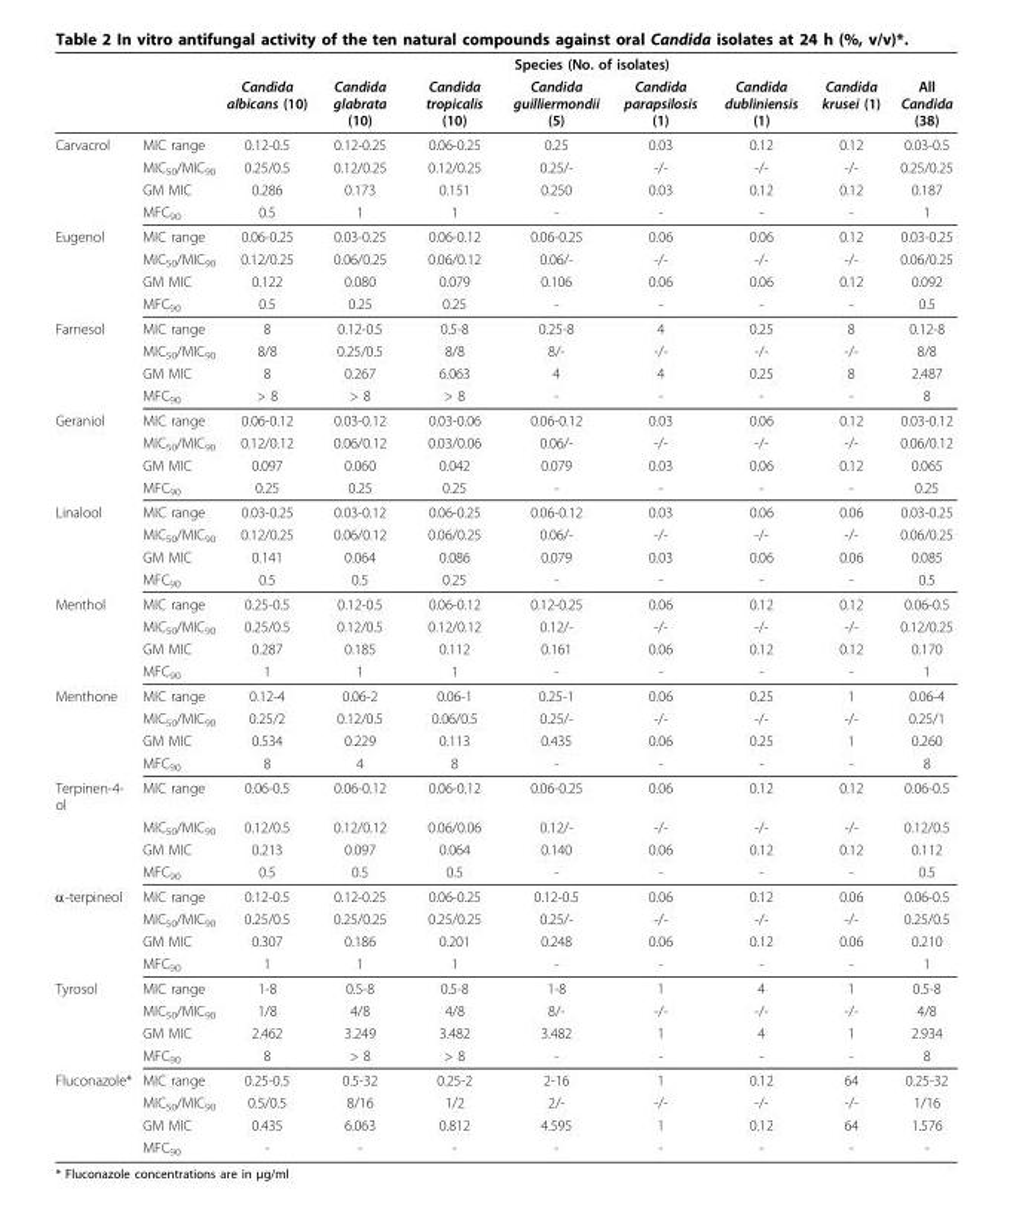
<table><thead><tr><td rowspan="2"></td><td rowspan="2"></td><td colspan="8">Species (No. of isolates)</td></tr><tr><td>Candida albicans (10)</td><td>Candida glabrata (10)</td><td>Candida tropicalis (10)</td><td>Candida guilliermondii (5)</td><td>Candida parapsilosis (1)</td><td>Candida dubliniensis (1)</td><td>Candida krusei (1)</td><td>All Candida (38)</td></tr></thead><tbody><tr><td rowspan="4">Carvacrol</td><td>MIC range</td><td>0.12-0.5</td><td>0.12-0.25</td><td>0.06-0.25</td><td>0.25</td><td>0.03</td><td>0.12</td><td>0.12</td><td>0.03-0.5</td></tr><tr><td>MIC<sub>50</sub>/MIC<sub>90</sub></td><td>0.25/0.5</td><td>0.12/0.25</td><td>0.12/0.25</td><td>0.25/-</td><td>-/-</td><td>-/-</td><td>-/-</td><td>0.25/0.25</td></tr><tr><td>GM MIC</td><td>0.286</td><td>0.173</td><td>0.151</td><td>0.250</td><td>0.03</td><td>0.12</td><td>0.12</td><td>0.187</td></tr><tr><td>MFC<sub>90</sub></td><td>0.5</td><td>1</td><td>1</td><td>-</td><td>-</td><td>-</td><td>-</td><td>1</td></tr><tr><td rowspan="4">Eugenol</td><td>MIC range</td><td>0.06-0.25</td><td>0.03-0.25</td><td>0.06-0.12</td><td>0.06-0.25</td><td>0.06</td><td>0.06</td><td>0.12</td><td>0.03-0.25</td></tr><tr><td>MIC<sub>50</sub>/MIC<sub>90</sub></td><td>0.12/0.25</td><td>0.06/0.25</td><td>0.06/0.12</td><td>0.06/-</td><td>-/-</td><td>-/-</td><td>-/-</td><td>0.06/0.25</td></tr><tr><td>GM MIC</td><td>0.122</td><td>0.080</td><td>0.079</td><td>0.106</td><td>0.06</td><td>0.06</td><td>0.12</td><td>0.092</td></tr><tr><td>MFC<sub>90</sub></td><td>0.5</td><td>0.25</td><td>0.25</td><td>-</td><td>-</td><td>-</td><td>-</td><td>0.5</td></tr><tr><td rowspan="4">Farnesol</td><td>MIC range</td><td>8</td><td>0.12-0.5</td><td>0.5-8</td><td>0.25-8</td><td>4</td><td>0.25</td><td>8</td><td>0.12-8</td></tr><tr><td>MIC<sub>50</sub>/MIC<sub>90</sub></td><td>8/8</td><td>0.25/0.5</td><td>8/8</td><td>8/-</td><td>-/-</td><td>-/-</td><td>-/-</td><td>8/8</td></tr><tr><td>GM MIC</td><td>8</td><td>0.267</td><td>6.063</td><td>4</td><td>4</td><td>0.25</td><td>8</td><td>2.487</td></tr><tr><td>MFC<sub>90</sub></td><td>&gt; 8</td><td>&gt; 8</td><td>&gt; 8</td><td>-</td><td>-</td><td>-</td><td>-</td><td>8</td></tr><tr><td rowspan="4">Geraniol</td><td>MIC range</td><td>0.06-0.12</td><td>0.03-0.12</td><td>0.03-0.06</td><td>0.06-0.12</td><td>0.03</td><td>0.06</td><td>0.12</td><td>0.03-0.12</td></tr><tr><td>MIC<sub>50</sub>/MIC<sub>90</sub></td><td>0.12/0.12</td><td>0.06/0.12</td><td>0.03/0.06</td><td>0.06/-</td><td>-/-</td><td>-/-</td><td>-/-</td><td>0.06/0.12</td></tr><tr><td>GM MIC</td><td>0.097</td><td>0.060</td><td>0.042</td><td>0.079</td><td>0.03</td><td>0.06</td><td>0.12</td><td>0.065</td></tr><tr><td>MFC<sub>90</sub></td><td>0.25</td><td>0.25</td><td>0.25</td><td>-</td><td>-</td><td>-</td><td>-</td><td>0.25</td></tr><tr><td rowspan="4">Linalool</td><td>MIC range</td><td>0.03-0.25</td><td>0.03-0.12</td><td>0.06-0.25</td><td>0.06-0.12</td><td>0.03</td><td>0.06</td><td>0.06</td><td>0.03-0.25</td></tr><tr><td>MIC<sub>50</sub>/MIC<sub>90</sub></td><td>0.12/0.25</td><td>0.06/0.12</td><td>0.06/0.25</td><td>0.06/-</td><td>-/-</td><td>-/-</td><td>-/-</td><td>0.06/0.25</td></tr><tr><td>GM MIC</td><td>0.141</td><td>0.064</td><td>0.086</td><td>0.079</td><td>0.03</td><td>0.06</td><td>0.06</td><td>0.085</td></tr><tr><td>MFC<sub>90</sub></td><td>0.5</td><td>0.5</td><td>0.25</td><td>-</td><td>-</td><td>-</td><td>-</td><td>0.5</td></tr><tr><td rowspan="4">Menthol</td><td>MIC range</td><td>0.25-0.5</td><td>0.12-0.5</td><td>0.06-0.12</td><td>0.12-0.25</td><td>0.06</td><td>0.12</td><td>0.12</td><td>0.06-0.5</td></tr><tr><td>MIC<sub>50</sub>/MIC<sub>90</sub></td><td>0.25/0.5</td><td>0.12/0.5</td><td>0.12/0.12</td><td>0.12/-</td><td>-/-</td><td>-/-</td><td>-/-</td><td>0.12/0.25</td></tr><tr><td>GM MIC</td><td>0.287</td><td>0.185</td><td>0.112</td><td>0.161</td><td>0.06</td><td>0.12</td><td>0.12</td><td>0.170</td></tr><tr><td>MFC<sub>90</sub></td><td>1</td><td>1</td><td>1</td><td>-</td><td>-</td><td>-</td><td>-</td><td>1</td></tr><tr><td rowspan="4">Menthone</td><td>MIC range</td><td>0.12-4</td><td>0.06-2</td><td>0.06-1</td><td>0.25-1</td><td>0.06</td><td>0.25</td><td>1</td><td>0.06-4</td></tr><tr><td>MIC<sub>50</sub>/MIC<sub>90</sub></td><td>0.25/2</td><td>0.12/0.5</td><td>0.06/0.5</td><td>0.25/-</td><td>-/-</td><td>-/-</td><td>-/-</td><td>0.25/1</td></tr><tr><td>GM MIC</td><td>0.534</td><td>0.229</td><td>0.113</td><td>0.435</td><td>0.06</td><td>0.25</td><td>1</td><td>0.260</td></tr><tr><td>MFC<sub>90</sub></td><td>8</td><td>4</td><td>8</td><td>-</td><td>-</td><td>-</td><td>-</td><td>8</td></tr><tr><td rowspan="4">Terpinen-4- ol</td><td>MIC range</td><td>0.06-0.5</td><td>0.06-0.12</td><td>0.06-0.12</td><td>0.06-0.25</td><td>0.06</td><td>0.12</td><td>0.12</td><td>0.06-0.5</td></tr><tr><td>MIC<sub>50</sub>/MIC<sub>90</sub></td><td>0.12/0.5</td><td>0.12/0.12</td><td>0.06/0.06</td><td>0.12/-</td><td>-/-</td><td>-/-</td><td>-/-</td><td>0.12/0.5</td></tr><tr><td>GM MIC</td><td>0.213</td><td>0.097</td><td>0.064</td><td>0.140</td><td>0.06</td><td>0.12</td><td>0.12</td><td>0.112</td></tr><tr><td>MFC<sub>90</sub></td><td>0.5</td><td>0.5</td><td>0.5</td><td>-</td><td>-</td><td>-</td><td>-</td><td>0.5</td></tr><tr><td rowspan="4">α-terpineol</td><td>MIC range</td><td>0.12-0.5</td><td>0.12-0.25</td><td>0.06-0.25</td><td>0.12-0.5</td><td>0.06</td><td>0.12</td><td>0.06</td><td>0.06-0.5</td></tr><tr><td>MIC<sub>50</sub>/MIC<sub>90</sub></td><td>0.25/0.5</td><td>0.25/0.25</td><td>0.25/0.25</td><td>0.25/-</td><td>-/-</td><td>-/-</td><td>-/-</td><td>0.25/0.5</td></tr><tr><td>GM MIC</td><td>0.307</td><td>0.186</td><td>0.201</td><td>0.248</td><td>0.06</td><td>0.12</td><td>0.06</td><td>0.210</td></tr><tr><td>MFC<sub>90</sub></td><td>1</td><td>1</td><td>1</td><td>-</td><td>-</td><td>-</td><td>-</td><td>1</td></tr><tr><td rowspan="4">Tyrosol</td><td>MIC range</td><td>1-8</td><td>0.5-8</td><td>0.5-8</td><td>1-8</td><td>1</td><td>4</td><td>1</td><td>0.5-8</td></tr><tr><td>MIC<sub>50</sub>/MIC<sub>90</sub></td><td>1/8</td><td>4/8</td><td>4/8</td><td>8/-</td><td>-/-</td><td>-/-</td><td>-/-</td><td>4/8</td></tr><tr><td>GM MIC</td><td>2.462</td><td>3.249</td><td>3.482</td><td>3.482</td><td>1</td><td>4</td><td>1</td><td>2.934</td></tr><tr><td>MFC<sub>90</sub></td><td>8</td><td>&gt; 8</td><td>&gt; 8</td><td>-</td><td>-</td><td>-</td><td>-</td><td>8</td></tr><tr><td rowspan="4">Fluconazole*</td><td>MIC range</td><td>0.25-0.5</td><td>0.5-32</td><td>0.25-2</td><td>2-16</td><td>1</td><td>0.12</td><td>64</td><td>0.25-32</td></tr><tr><td>MIC<sub>50</sub>/MIC<sub>90</sub></td><td>0.5/0.5</td><td>8/16</td><td>1/2</td><td>2/-</td><td>-/-</td><td>-/-</td><td>-/-</td><td>1/16</td></tr><tr><td>GM MIC</td><td>0.435</td><td>6.063</td><td>0.812</td><td>4.595</td><td>1</td><td>0.12</td><td>64</td><td>1.576</td></tr><tr><td>MFC<sub>90</sub></td><td>-</td><td>-</td><td>-</td><td>-</td><td>-</td><td>-</td><td>-</td><td>-</td></tr></tbody></table>